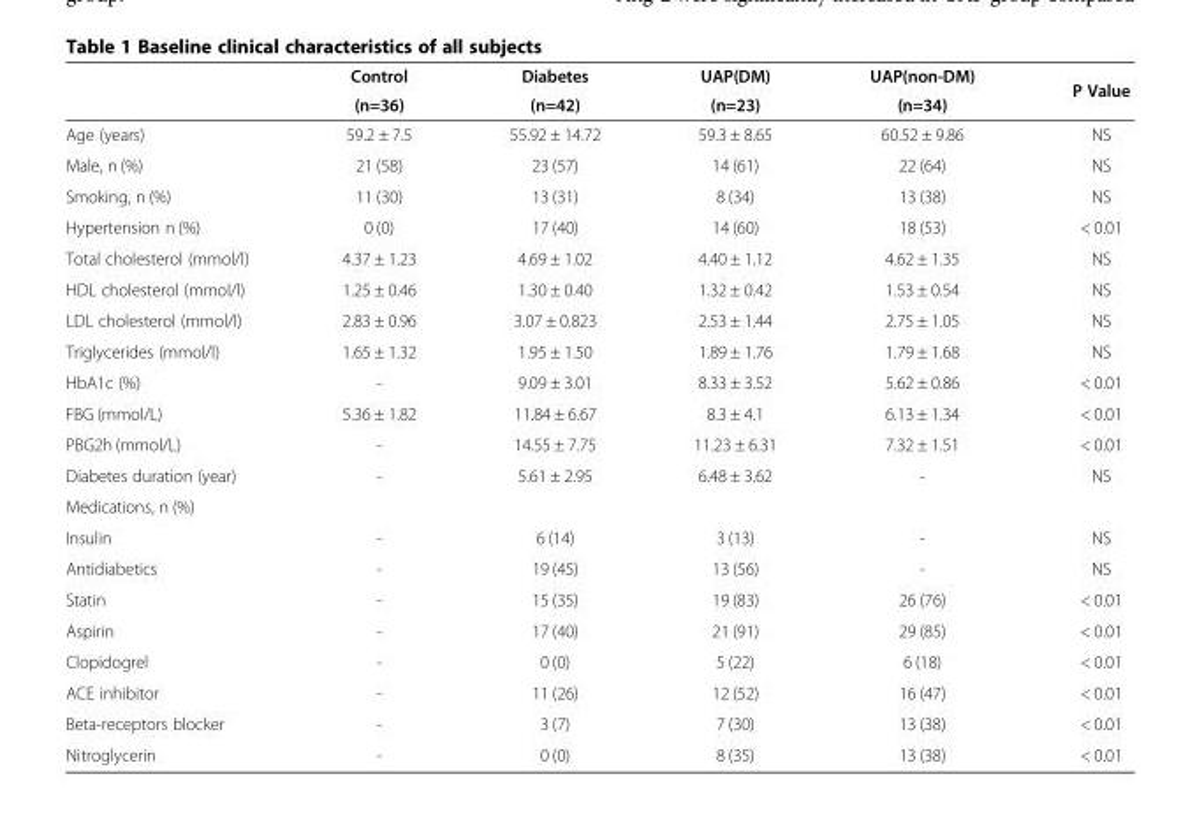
<table><thead><tr><td rowspan="2"></td><td rowspan="2">Control (n=36)</td><td rowspan="2">Diabetes (n=42)</td><td rowspan="2">UAP(DM) (n=23)</td><td rowspan="2">UAP(non-DM) (n=34)</td><td rowspan="2">P Value</td></tr><tr></tr></thead><tbody><tr><td>Age (years)</td><td>59.2 ± 7.5</td><td>55.92 ± 14.72</td><td>59.3 ± 8.65</td><td>60.52 ± 9.86</td><td>NS</td></tr><tr><td>Male, n (%)</td><td>21 (58)</td><td>23 (57)</td><td>14 (61)</td><td>22 (64)</td><td>NS</td></tr><tr><td>Smoking, n (%)</td><td>11 (30)</td><td>13 (31)</td><td>8 (34)</td><td>13 (38)</td><td>NS</td></tr><tr><td>Hypertension n (%)</td><td>0 (0)</td><td>17 (40)</td><td>14 (60)</td><td>18 (53)</td><td>&lt; 0.01</td></tr><tr><td>Total cholesterol (mmol/l)</td><td>4.37 ± 1.23</td><td>4.69 ± 1.02</td><td>4.40 ± 1.12</td><td>4.62 ± 1.35</td><td>NS</td></tr><tr><td>HDL cholesterol (mmol/l)</td><td>1.25 ± 0.46</td><td>1.30 ± 0.40</td><td>1.32 ± 0.42</td><td>1.53 ± 0.54</td><td>NS</td></tr><tr><td>LDL cholesterol (mmol/l)</td><td>2.83 ± 0.96</td><td>3.07 ± 0.823</td><td>2.53 ± 1.44</td><td>2.75 ± 1.05</td><td>NS</td></tr><tr><td>Triglycerides (mmol/l)</td><td>1.65 ± 1.32</td><td>1.95 ± 1.50</td><td>1.89 ± 1.76</td><td>1.79 ± 1.68</td><td>NS</td></tr><tr><td>HbA1c (%)</td><td>-</td><td>9.09 ± 3.01</td><td>8.33 ± 3.52</td><td>5.62 ± 0.86</td><td>&lt; 0.01</td></tr><tr><td>FBG (mmol/L)</td><td>5.36 ± 1.82</td><td>11.84 ± 6.67</td><td>8.3 ± 4.1</td><td>6.13 ± 1.34</td><td>&lt; 0.01</td></tr><tr><td>PBG2h (mmol/L)</td><td>-</td><td>14.55 ± 7.75</td><td>11.23 ± 6.31</td><td>7.32 ± 1.51</td><td>&lt; 0.01</td></tr><tr><td>Diabetes duration (year)</td><td>-</td><td>5.61 ± 2.95</td><td>6.48 ± 3.62</td><td>-</td><td>NS</td></tr><tr><td colspan="6">Medications, n (%)</td></tr><tr><td>Insulin</td><td>-</td><td>6 (14)</td><td>3 (13)</td><td>-</td><td>NS</td></tr><tr><td>Antidiabetics</td><td>-</td><td>19 (45)</td><td>13 (56)</td><td>-</td><td>NS</td></tr><tr><td>Statin</td><td>-</td><td>15 (35)</td><td>19 (83)</td><td>26 (76)</td><td>&lt; 0.01</td></tr><tr><td>Aspirin</td><td>-</td><td>17 (40)</td><td>21 (91)</td><td>29 (85)</td><td>&lt; 0.01</td></tr><tr><td>Clopidogrel</td><td>-</td><td>0 (0)</td><td>5 (22)</td><td>6 (18)</td><td>&lt; 0.01</td></tr><tr><td>ACE inhibitor</td><td>-</td><td>11 (26)</td><td>12 (52)</td><td>16 (47)</td><td>&lt; 0.01</td></tr><tr><td>Beta-receptors blocker</td><td>-</td><td>3 (7)</td><td>7 (30)</td><td>13 (38)</td><td>&lt; 0.01</td></tr><tr><td>Nitroglycerin</td><td>-</td><td>0 (0)</td><td>8 (35)</td><td>13 (38)</td><td>&lt; 0.01</td></tr></tbody></table>